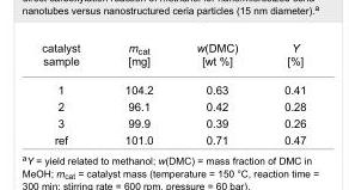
<table><tbody><tr><td>catalyst sample</td><td>m<sub>cat</sub> [mg]</td><td>w(DMC) [wt %]</td><td>Y [%]</td></tr><tr><td>1</td><td>104.2</td><td>0.63</td><td>0.41</td></tr><tr><td>2</td><td>96.1</td><td>0.42</td><td>0.28</td></tr><tr><td>3</td><td>99.9</td><td>0.39</td><td>0.26</td></tr><tr><td>ref</td><td>101.0</td><td>0.71</td><td>0.47</td></tr></tbody></table>